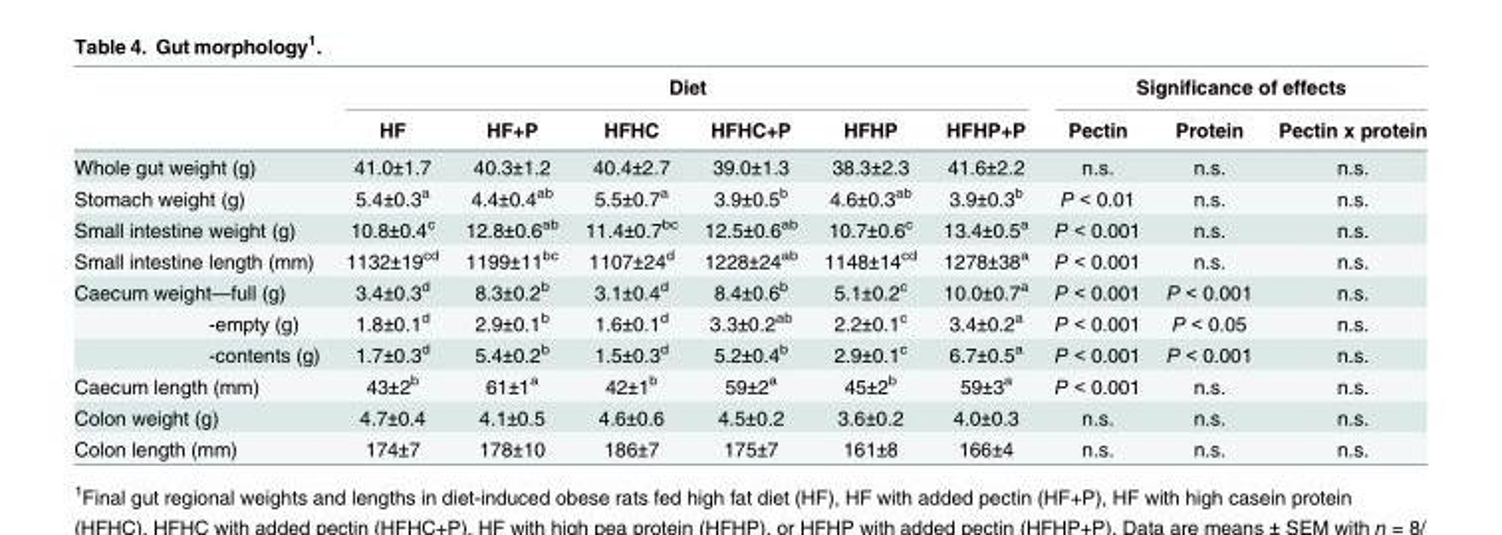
<table><thead><tr><td rowspan="2"></td><td colspan="6">Diet</td><td colspan="3">Significance of effects</td></tr><tr><td>HF</td><td>HF+P</td><td>HFHC</td><td>HFHC+P</td><td>HFHP</td><td>HFHP+P</td><td>Pectin</td><td>Protein</td><td>Pectin x protein</td></tr></thead><tbody><tr><td>Whole gut weight (g)</td><td>41.0±1.7</td><td>40.3±1.2</td><td>40.4±2.7</td><td>39.0±1.3</td><td>38.3±2.3</td><td>41.6±2.2</td><td>n.s.</td><td>n.s.</td><td>n.s.</td></tr><tr><td>Stomach weight (g)</td><td>5.4±0.3<sup>a</sup></td><td>4.4±0.4<sup>ab</sup></td><td>5.5±0.7<sup>a</sup></td><td>3.9±0.5<sup>b</sup></td><td>4.6±0.3<sup>ab</sup></td><td>3.9±0.3<sup>b</sup></td><td>P &lt; 0.01</td><td>n.s.</td><td>n.s.</td></tr><tr><td>Small intestine weight (g)</td><td>10.8±0.4<sup>c</sup></td><td>12.8±0.6<sup>ab</sup></td><td>11.4±0.7<sup>bc</sup></td><td>12.5±0.6<sup>ab</sup></td><td>10.7±0.6<sup>c</sup></td><td>13.4±0.5<sup>a</sup></td><td>P &lt; 0.001</td><td>n.s.</td><td>n.s.</td></tr><tr><td>Small intestine length (mm)</td><td>1132±19<sup>cd</sup></td><td>1199±11<sup>bc</sup></td><td>1107±24<sup>d</sup></td><td>1228±24<sup>ab</sup></td><td>1148±14<sup>cd</sup></td><td>1278±38<sup>a</sup></td><td>P &lt; 0.001</td><td>n.s.</td><td>n.s.</td></tr><tr><td>Caecum weight—full (g)</td><td>3.4±0.3<sup>d</sup></td><td>8.3±0.2<sup>b</sup></td><td>3.1±0.4<sup>d</sup></td><td>8.4±0.6<sup>b</sup></td><td>5.1±0.2<sup>c</sup></td><td>10.0±0.7<sup>a</sup></td><td>P &lt; 0.001</td><td>P &lt; 0.001</td><td>n.s.</td></tr><tr><td>-empty (g)</td><td>1.8±0.1<sup>d</sup></td><td>2.9±0.1<sup>b</sup></td><td>1.6±0.1<sup>d</sup></td><td>3.3±0.2<sup>ab</sup></td><td>2.2±0.1<sup>c</sup></td><td>3.4±0.2<sup>a</sup></td><td>P &lt; 0.001</td><td>P &lt; 0.05</td><td>n.s.</td></tr><tr><td>-contents (g)</td><td>1.7±0.3<sup>d</sup></td><td>5.4±0.2<sup>b</sup></td><td>1.5±0.3<sup>d</sup></td><td>5.2±0.4<sup>b</sup></td><td>2.9±0.1<sup>c</sup></td><td>6.7±0.5<sup>a</sup></td><td>P &lt; 0.001</td><td>P &lt; 0.001</td><td>n.s.</td></tr><tr><td>Caecum length (mm)</td><td>43±2<sup>b</sup></td><td>61±1<sup>a</sup></td><td>42±1<sup>b</sup></td><td>59±2<sup>a</sup></td><td>45±2<sup>b</sup></td><td>59±3<sup>a</sup></td><td>P &lt; 0.001</td><td>n.s.</td><td>n.s.</td></tr><tr><td>Colon weight (g)</td><td>4.7±0.4</td><td>4.1±0.5</td><td>4.6±0.6</td><td>4.5±0.2</td><td>3.6±0.2</td><td>4.0±0.3</td><td>n.s.</td><td>n.s.</td><td>n.s.</td></tr><tr><td>Colon length (mm)</td><td>174±7</td><td>178±10</td><td>186±7</td><td>175±7</td><td>161±8</td><td>166±4</td><td>n.s.</td><td>n.s.</td><td>n.s.</td></tr></tbody></table>